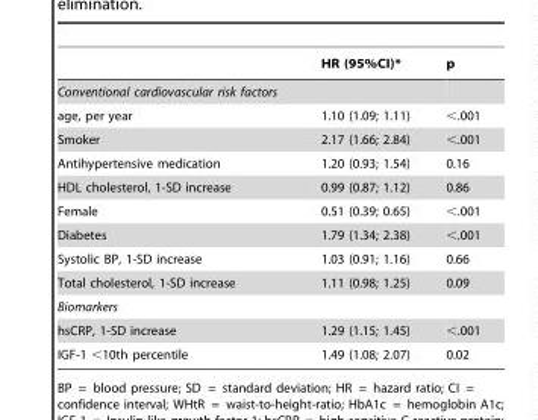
<table><thead><tr><td></td><td>HR (95%CI)*</td><td>p</td></tr></thead><tbody><tr><td colspan="3">Conventional cardiovascular risk factors</td></tr><tr><td>age, per year</td><td>1.10 (1.09; 1.11)</td><td>&lt;.001</td></tr><tr><td>Smoker</td><td>2.17 (1.66; 2.84)</td><td>&lt;.001</td></tr><tr><td>Antihypertensive medication</td><td>1.20 (0.93; 1.54)</td><td>0.16</td></tr><tr><td>HDL cholesterol, 1-SD increase</td><td>0.99 (0.87; 1.12)</td><td>0.86</td></tr><tr><td>Female</td><td>0.51 (0.39; 0.65)</td><td>&lt;.001</td></tr><tr><td>Diabetes</td><td>1.79 (1.34; 2.38)</td><td>&lt;.001</td></tr><tr><td>Systolic BP, 1-SD increase</td><td>1.03 (0.91; 1.16)</td><td>0.66</td></tr><tr><td>Total cholesterol, 1-SD increase</td><td>1.11 (0.98; 1.25)</td><td>0.09</td></tr><tr><td colspan="3">Biomarkers</td></tr><tr><td>hsCRP, 1-SD increase</td><td>1.29 (1.15; 1.45)</td><td>&lt;.001</td></tr><tr><td>IGF-1 &lt;10th percentile</td><td>1.49 (1.08; 2.07)</td><td>0.02</td></tr></tbody></table>